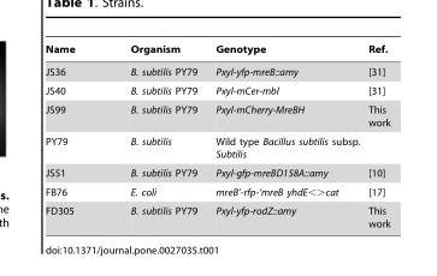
<table><thead><tr><td>Name</td><td>Organism</td><td>Genotype</td><td>Ref.</td></tr></thead><tbody><tr><td>JS36</td><td>B. subtilis PY79</td><td>Pxyl-yfp-mreB::amy</td><td>[31]</td></tr><tr><td>JS40</td><td>B. subtilis PY79</td><td>Pxyl-mCer-mbl</td><td>[31]</td></tr><tr><td>JS99</td><td>B. subtilis PY79</td><td>Pxyl-mCherry-MreBH</td><td>This work</td></tr><tr><td>PY79</td><td>B. subtilis</td><td>Wild type Bacillus subtilis subsp. Subtilis</td><td></td></tr><tr><td>JS51</td><td>B. subtilis PY79</td><td>Pxyl-gfp-mreBD158A::amy</td><td>[10]</td></tr><tr><td>FB76</td><td>E. coli</td><td>mreB’-rfp-‘mreB yhdE&lt;&gt;cat</td><td>[17]</td></tr><tr><td>FD305</td><td>B. subtilis PY79</td><td>Pxyl-yfp-rodZ::amy</td><td>This work</td></tr></tbody></table>